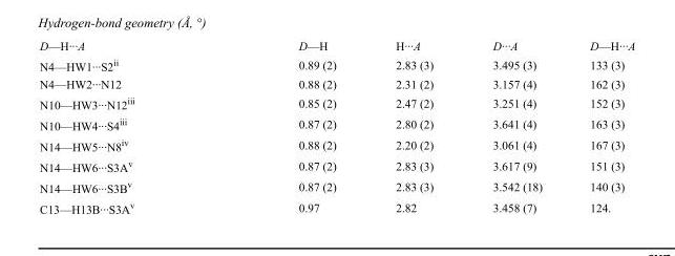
<table><tbody><tr><td>D—H···A</td><td>D—H</td><td>H···A</td><td>D···A</td><td>D—H···A</td></tr><tr><td>N4—HW1···S2<sup>ii</sup></td><td>0.89 (2)</td><td>2.83 (3)</td><td>3.495 (3)</td><td>133 (3)</td></tr><tr><td>N4—HW2···N12</td><td>0.88 (2)</td><td>2.31 (2)</td><td>3.157 (4)</td><td>162 (3)</td></tr><tr><td>N10—HW3···N12<sup>iii</sup></td><td>0.85 (2)</td><td>2.47 (2)</td><td>3.251 (4)</td><td>152 (3)</td></tr><tr><td>N10—HW4···S4<sup>iii</sup></td><td>0.87 (2)</td><td>2.80 (2)</td><td>3.641 (4)</td><td>163 (3)</td></tr><tr><td>N14—HW5···N8<sup>iv</sup></td><td>0.88 (2)</td><td>2.20 (2)</td><td>3.061 (4)</td><td>167 (3)</td></tr><tr><td>N14—HW6···S3A<sup>v</sup></td><td>0.87 (2)</td><td>2.83 (3)</td><td>3.617 (9)</td><td>151 (3)</td></tr><tr><td>N14—HW6···S3B<sup>v</sup></td><td>0.87 (2)</td><td>2.83 (3)</td><td>3.542 (18)</td><td>140 (3)</td></tr><tr><td>C13—H13B···S3A<sup>v</sup></td><td>0.97</td><td>2.82</td><td>3.458 (7)</td><td>124.</td></tr></tbody></table>